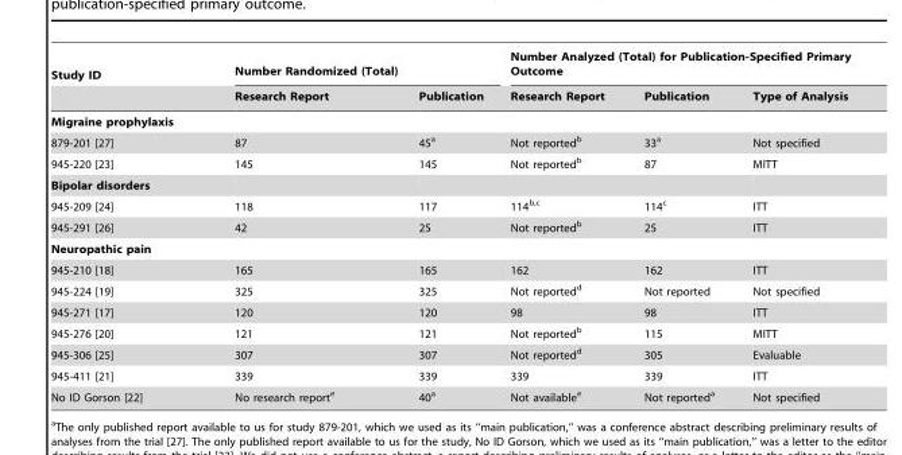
<table><thead><tr><td rowspan="2">Study ID</td><td colspan="2">Number Randomized (Total)</td><td colspan="3">Number Analyzed (Total) for Publication-Specified Primary Outcome</td></tr><tr><td>Research Report</td><td>Publication</td><td>Research Report</td><td>Publication</td><td>Type of Analysis</td></tr></thead><tbody><tr><td colspan="6">Migraine prophylaxis</td></tr><tr><td>879-201 [27]</td><td>87</td><td>45<sup>a</sup></td><td>Not reported<sup>b</sup></td><td>33<sup>a</sup></td><td>Not specified</td></tr><tr><td>945-220 [23]</td><td>145</td><td>145</td><td>Not reported<sup>b</sup></td><td>87</td><td>MITT</td></tr><tr><td colspan="6">Bipolar disorders</td></tr><tr><td>945-209 [24]</td><td>118</td><td>117</td><td>114<sup>b,</sup>c</td><td>114<sup>c</sup></td><td>ITT</td></tr><tr><td>945-291 [26]</td><td>42</td><td>25</td><td>Not reported<sup>b</sup></td><td>25</td><td>ITT</td></tr><tr><td colspan="6">Neuropathic pain</td></tr><tr><td>945-210 [18]</td><td>165</td><td>165</td><td>162</td><td>162</td><td>ITT</td></tr><tr><td>945-224 [19]</td><td>325</td><td>325</td><td>Not reported<sup>d</sup></td><td>Not reported</td><td>Not specified</td></tr><tr><td>945-271 [17]</td><td>120</td><td>120</td><td>98</td><td>98</td><td>ITT</td></tr><tr><td>945-276 [20]</td><td>121</td><td>121</td><td>Not reported<sup>b</sup></td><td>115</td><td>MITT</td></tr><tr><td>945-306 [25]</td><td>307</td><td>307</td><td>Not reported<sup>d</sup></td><td>305</td><td>Evaluable</td></tr><tr><td>945-411 [21]</td><td>339</td><td>339</td><td>339</td><td>339</td><td>ITT</td></tr><tr><td>No ID Gorson [22]</td><td>No research report<sup>e</sup></td><td>40<sup>a</sup></td><td>Not available<sup>e</sup></td><td>Not reported<sup>a</sup></td><td>Not specified</td></tr></tbody></table>